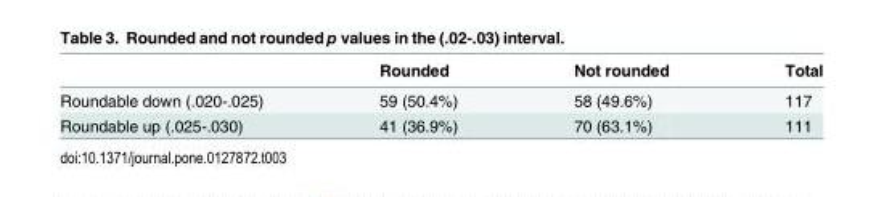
<table><thead><tr><td></td><td>Rounded</td><td>Not rounded</td><td>Total</td></tr></thead><tbody><tr><td>Roundable down (.020-.025)</td><td>59 (50.4%)</td><td>58 (49.6%)</td><td>117</td></tr><tr><td>Roundable up (.025-.030)</td><td>41 (36.9%)</td><td>70 (63.1%)</td><td>111</td></tr></tbody></table>